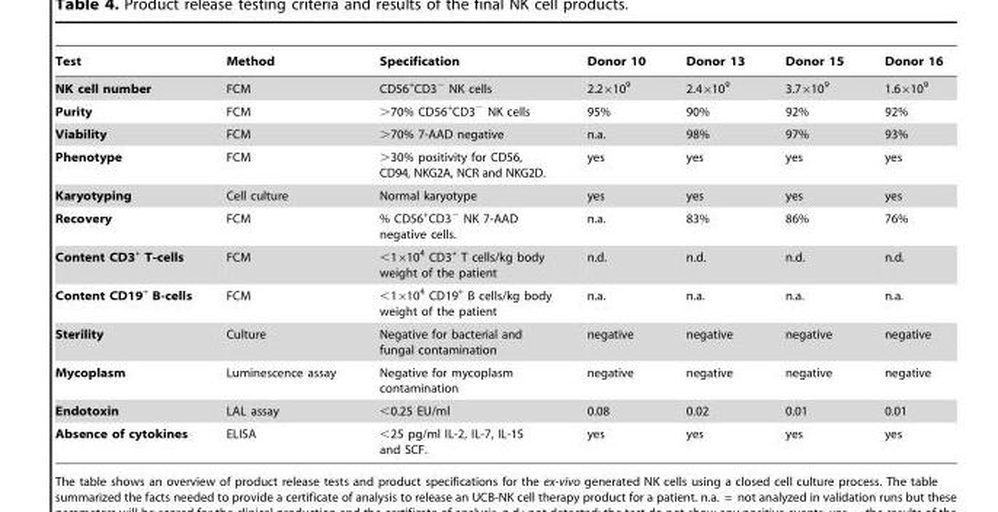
<table><thead><tr><td>Test</td><td>Method</td><td>Specification</td><td>Donor 10</td><td>Donor 13</td><td>Donor 15</td><td>Donor 16</td></tr></thead><tbody><tr><td>NK cell number</td><td>FCM</td><td>CD56<sup>+</sup>CD3<sup>−</sup> NK cells</td><td>2.2×10<sup>9</sup></td><td>2.4×10<sup>9</sup></td><td>3.7×10<sup>9</sup></td><td>1.6×10<sup>9</sup></td></tr><tr><td>Purity</td><td>FCM</td><td>&gt;70% CD56<sup>+</sup>CD3<sup>−</sup> NK cells</td><td>95%</td><td>90%</td><td>92%</td><td>92%</td></tr><tr><td>Viability</td><td>FCM</td><td>&gt;70% 7-AAD negative</td><td>n.a.</td><td>98%</td><td>97%</td><td>93%</td></tr><tr><td>Phenotype</td><td>FCM</td><td>&gt;30% positivity for CD56, CD94, NKG2A, NCR and NKG2D.</td><td>yes</td><td>yes</td><td>yes</td><td>yes</td></tr><tr><td>Karyotyping</td><td>Cell culture</td><td>Normal karyotype</td><td>yes</td><td>yes</td><td>yes</td><td>yes</td></tr><tr><td>Recovery</td><td>FCM</td><td>% CD56<sup>+</sup>CD3<sup>−</sup> NK 7-AAD negative cells.</td><td>n.a.</td><td>83%</td><td>86%</td><td>76%</td></tr><tr><td>Content CD3<sup>+</sup> T-cells</td><td>FCM</td><td>&lt;1×10<sup>4</sup> CD3<sup>+</sup> T cells/kg body weight of the patient</td><td>n.d.</td><td>n.d.</td><td>n.d.</td><td>n.d.</td></tr><tr><td>Content CD19<sup>+</sup> B-cells</td><td>FCM</td><td>&lt;1×10<sup>4</sup> CD19<sup>+</sup> B cells/kg body weight of the patient</td><td>n.a.</td><td>n.a.</td><td>n.a.</td><td>n.a.</td></tr><tr><td>Sterility</td><td>Culture</td><td>Negative for bacterial and fungal contamination</td><td>negative</td><td>negative</td><td>negative</td><td>negative</td></tr><tr><td>Mycoplasm</td><td>Luminescence assay</td><td>Negative for mycoplasm contamination</td><td>negative</td><td>negative</td><td>negative</td><td>negative</td></tr><tr><td>Endotoxin</td><td>LAL assay</td><td>&lt;0.25 EU/ml</td><td>0.08</td><td>0.02</td><td>0.01</td><td>0.01</td></tr><tr><td>Absence of cytokines</td><td>ELISA</td><td>&lt;25 pg/ml IL-2, IL-7, IL-15 and SCF.</td><td>yes</td><td>yes</td><td>yes</td><td>yes</td></tr></tbody></table>